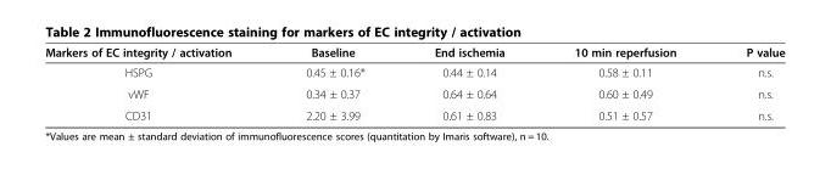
<table><thead><tr><td>Markers of EC integrity / activation</td><td>Baseline</td><td>End ischemia</td><td>10 min reperfusion</td><td>P value</td></tr></thead><tbody><tr><td>HSPG</td><td>0.45 ± 0.16*</td><td>0.44 ± 0.14</td><td>0.58 ± 0.11</td><td>n.s.</td></tr><tr><td>vWF</td><td>0.34 ± 0.37</td><td>0.64 ± 0.64</td><td>0.60 ± 0.49</td><td>n.s.</td></tr><tr><td>CD31</td><td>2.20 ± 3.99</td><td>0.61 ± 0.83</td><td>0.51 ± 0.57</td><td>n.s.</td></tr></tbody></table>